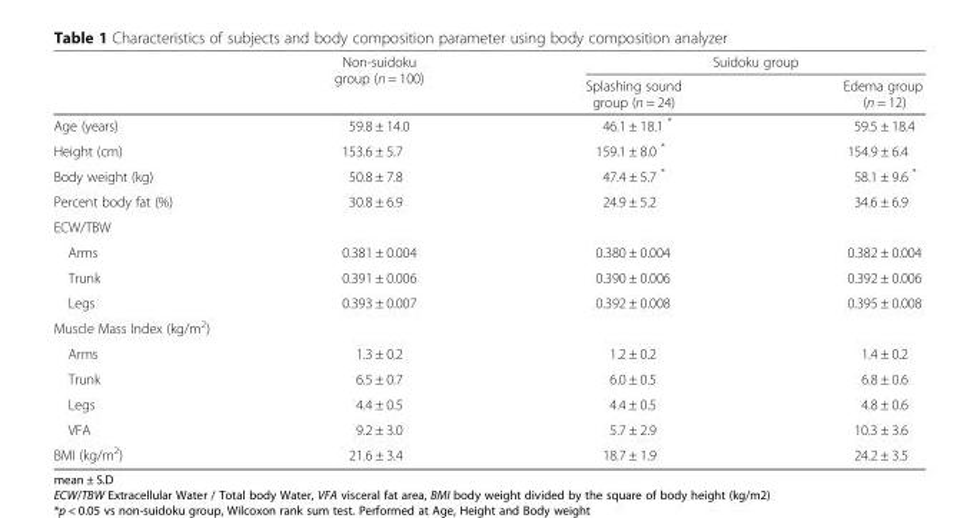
<table><thead><tr><td rowspan="2"></td><td rowspan="2">Non-suidoku group (n = 100)</td><td colspan="2">Suidoku group</td></tr><tr><td>Splashing sound group (n = 24)</td><td>Edema group (n = 12)</td></tr></thead><tbody><tr><td>Age (years)</td><td>59.8 ± 14.0</td><td>46.1 ± 18.1 *</td><td>59.5 ± 18.4</td></tr><tr><td>Height (cm)</td><td>153.6 ± 5.7</td><td>159.1 ± 8.0 *</td><td>154.9 ± 6.4</td></tr><tr><td>Body weight (kg)</td><td>50.8 ± 7.8</td><td>47.4 ± 5.7 *</td><td>58.1 ± 9.6 *</td></tr><tr><td>Percent body fat (%)</td><td>30.8 ± 6.9</td><td>24.9 ± 5.2</td><td>34.6 ± 6.9</td></tr><tr><td colspan="4">ECW/TBW</td></tr><tr><td>Arms</td><td>0.381 ± 0.004</td><td>0.380 ± 0.004</td><td>0.382 ± 0.004</td></tr><tr><td>Trunk</td><td>0.391 ± 0.006</td><td>0.390 ± 0.006</td><td>0.392 ± 0.006</td></tr><tr><td>Legs</td><td>0.393 ± 0.007</td><td>0.392 ± 0.008</td><td>0.395 ± 0.008</td></tr><tr><td colspan="4">Muscle Mass Index (kg/m<sup>2</sup>)</td></tr><tr><td>Arms</td><td>1.3 ± 0.2</td><td>1.2 ± 0.2</td><td>1.4 ± 0.2</td></tr><tr><td>Trunk</td><td>6.5 ± 0.7</td><td>6.0 ± 0.5</td><td>6.8 ± 0.6</td></tr><tr><td>Legs</td><td>4.4 ± 0.5</td><td>4.4 ± 0.5</td><td>4.8 ± 0.6</td></tr><tr><td>VFA</td><td>9.2 ± 3.0</td><td>5.7 ± 2.9</td><td>10.3 ± 3.6</td></tr><tr><td>BMI (kg/m<sup>2</sup>)</td><td>21.6 ± 3.4</td><td>18.7 ± 1.9</td><td>24.2 ± 3.5</td></tr></tbody></table>